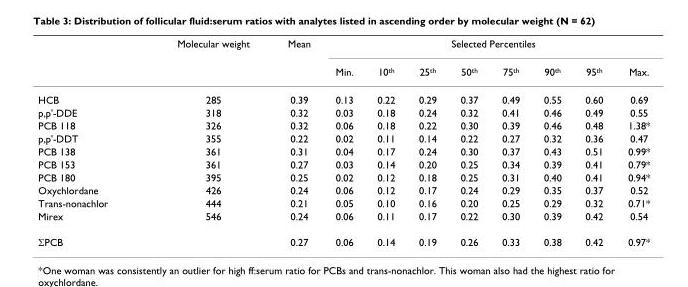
<table><thead><tr><td rowspan="2"></td><td rowspan="2">Molecular weight</td><td rowspan="2">Mean</td><td colspan="8">Selected Percentiles</td></tr><tr><td>Min.</td><td>10<sup>th</sup></td><td>25<sup>th</sup></td><td>50<sup>th</sup></td><td>75<sup>th</sup></td><td>90<sup>th</sup></td><td>95<sup>th</sup></td><td>Max.</td></tr></thead><tbody><tr><td>HCB</td><td>285</td><td>0.39</td><td>0.13</td><td>0.22</td><td>0.29</td><td>0.37</td><td>0.49</td><td>0.55</td><td>0.60</td><td>0.69</td></tr><tr><td>p,p&#x27;-DDE</td><td>318</td><td>0.32</td><td>0.03</td><td>0.18</td><td>0.24</td><td>0.32</td><td>0.41</td><td>0.46</td><td>0.49</td><td>0.55</td></tr><tr><td>PCB 118</td><td>326</td><td>0.32</td><td>0.06</td><td>0.18</td><td>0.22</td><td>0.30</td><td>0.39</td><td>0.46</td><td>0.48</td><td>1.38*</td></tr><tr><td>p,p&#x27;-DDT</td><td>355</td><td>0.22</td><td>0.02</td><td>0.11</td><td>0.14</td><td>0.22</td><td>0.27</td><td>0.32</td><td>0.36</td><td>0.47</td></tr><tr><td>PCB 138</td><td>361</td><td>0.31</td><td>0.04</td><td>0.17</td><td>0.24</td><td>0.30</td><td>0.37</td><td>0.43</td><td>0.51</td><td>0.99*</td></tr><tr><td>PCB 153</td><td>361</td><td>0.27</td><td>0.03</td><td>0.14</td><td>0.20</td><td>0.25</td><td>0.34</td><td>0.39</td><td>0.41</td><td>0.79*</td></tr><tr><td>PCB 180</td><td>395</td><td>0.25</td><td>0.02</td><td>0.12</td><td>0.18</td><td>0.25</td><td>0.31</td><td>0.40</td><td>0.41</td><td>0.94*</td></tr><tr><td>Oxychlordane</td><td>426</td><td>0.24</td><td>0.06</td><td>0.12</td><td>0.17</td><td>0.24</td><td>0.29</td><td>0.35</td><td>0.37</td><td>0.52</td></tr><tr><td>Trans-nonachlor</td><td>444</td><td>0.21</td><td>0.05</td><td>0.10</td><td>0.16</td><td>0.20</td><td>0.25</td><td>0.29</td><td>0.32</td><td>0.71*</td></tr><tr><td>Mirex</td><td>546</td><td>0.24</td><td>0.06</td><td>0.11</td><td>0.17</td><td>0.22</td><td>0.30</td><td>0.39</td><td>0.42</td><td>0.54</td></tr><tr><td>ΣPCB</td><td></td><td>0.27</td><td>0.06</td><td>0.14</td><td>0.19</td><td>0.26</td><td>0.33</td><td>0.38</td><td>0.42</td><td>0.97*</td></tr></tbody></table>